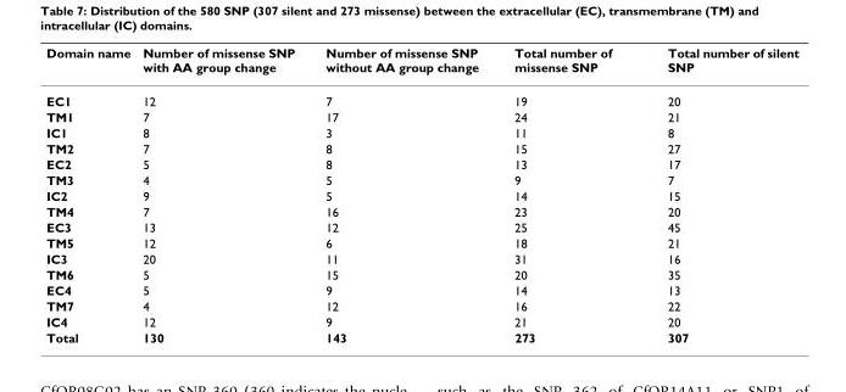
<table><thead><tr><td>Domain name</td><td>Number of missense SNP with AA group change</td><td>Number of missense SNP without AA group change</td><td>Total number of missense SNP</td><td>Total number of silent SNP</td></tr></thead><tbody><tr><td>EC1</td><td>12</td><td>7</td><td>19</td><td>20</td></tr><tr><td>TM1</td><td>7</td><td>17</td><td>24</td><td>21</td></tr><tr><td>IC1</td><td>8</td><td>3</td><td>11</td><td>8</td></tr><tr><td>TM2</td><td>7</td><td>8</td><td>15</td><td>27</td></tr><tr><td>EC2</td><td>5</td><td>8</td><td>13</td><td>17</td></tr><tr><td>TM3</td><td>4</td><td>5</td><td>9</td><td>7</td></tr><tr><td>IC2</td><td>9</td><td>5</td><td>14</td><td>15</td></tr><tr><td>TM4</td><td>7</td><td>16</td><td>23</td><td>20</td></tr><tr><td>EC3</td><td>13</td><td>12</td><td>25</td><td>45</td></tr><tr><td>TM5</td><td>12</td><td>6</td><td>18</td><td>21</td></tr><tr><td>IC3</td><td>20</td><td>11</td><td>31</td><td>16</td></tr><tr><td>TM6</td><td>5</td><td>15</td><td>20</td><td>35</td></tr><tr><td>EC4</td><td>5</td><td>9</td><td>14</td><td>13</td></tr><tr><td>TM7</td><td>4</td><td>12</td><td>16</td><td>22</td></tr><tr><td>IC4</td><td>12</td><td>9</td><td>21</td><td>20</td></tr><tr><td>Total</td><td>130</td><td>143</td><td>273</td><td>307</td></tr></tbody></table>